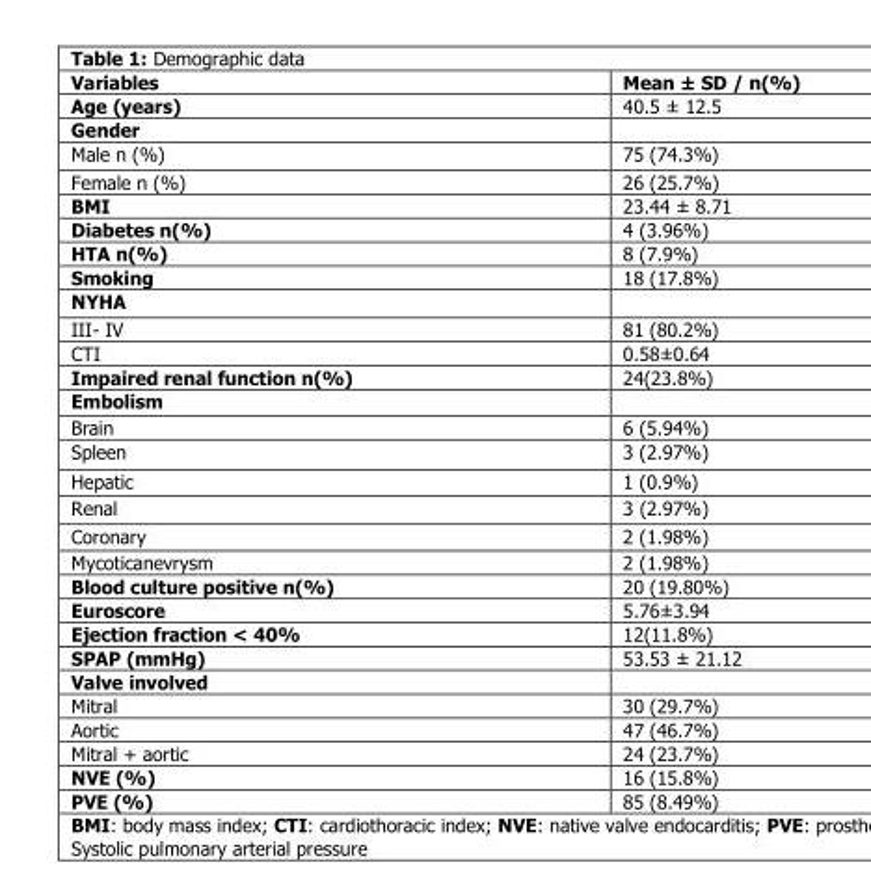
<table><thead><tr><td>Variables</td><td>Mean ± SD / n(%)</td></tr></thead><tbody><tr><td>Age (years)</td><td>40.5 ± 12.5</td></tr><tr><td colspan="2">Gender</td></tr><tr><td>Male n (%)</td><td>75 (74.3%)</td></tr><tr><td>Female n (%)</td><td>26 (25.7%)</td></tr><tr><td>BMI</td><td>23.44 ± 8.71</td></tr><tr><td>Diabetes n(%)</td><td>4 (3.96%)</td></tr><tr><td>HTA n(%)</td><td>8 (7.9%)</td></tr><tr><td>Smoking</td><td>18 (17.8%)</td></tr><tr><td colspan="2">NYHA</td></tr><tr><td>III- IV</td><td>81 (80.2%)</td></tr><tr><td>CTI</td><td>0.58±0.64</td></tr><tr><td>Impaired renal function n(%)</td><td>24(23.8%)</td></tr><tr><td colspan="2">Embolism</td></tr><tr><td>Brain</td><td>6 (5.94%)</td></tr><tr><td>Spleen</td><td>3 (2.97%)</td></tr><tr><td>Hepatic</td><td>1 (0.9%)</td></tr><tr><td>Renal</td><td>3 (2.97%)</td></tr><tr><td>Coronary</td><td>2 (1.98%)</td></tr><tr><td>Mycoticanevrysm</td><td>2 (1.98%)</td></tr><tr><td>Blood culture positive n(%)</td><td>20 (19.80%)</td></tr><tr><td>Euroscore</td><td>5.76±3.94</td></tr><tr><td>Ejection fraction &lt; 40%</td><td>12(11.8%)</td></tr><tr><td>SPAP (mmHg)</td><td>53.53 ± 21.12</td></tr><tr><td colspan="2">Valve involved</td></tr><tr><td>Mitral</td><td>30 (29.7%)</td></tr><tr><td>Aortic</td><td>47 (46.7%)</td></tr><tr><td>Mitral + aortic</td><td>24 (23.7%)</td></tr><tr><td>NVE (%)</td><td>16 (15.8%)</td></tr><tr><td>PVE (%)</td><td>85 (8.49%)</td></tr></tbody></table>